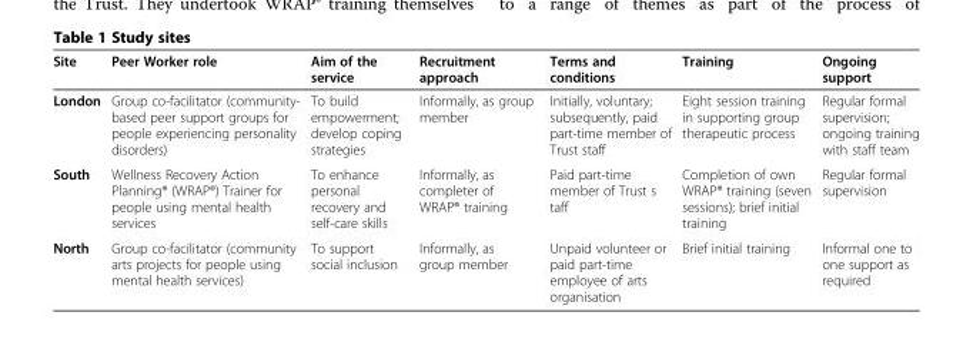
<table><thead><tr><td>Site</td><td>Peer Worker role</td><td>Aim of the service</td><td>Recruitment approach</td><td>Terms and conditions</td><td>Training</td><td>Ongoing support</td></tr></thead><tbody><tr><td>London</td><td>Group co-facilitator (community- based peer support groups for people experiencing personality disorders)</td><td>To build empowerment; develop coping strategies</td><td>Informally, as group member</td><td>Initially, voluntary; subsequently, paid part-time member of Trust staff</td><td>Eight session training in supporting group therapeutic process</td><td>Regular formal supervision; ongoing training with staff team</td></tr><tr><td>South</td><td>Wellness Recovery Action Planning® (WRAP®) Trainer for people using mental health services</td><td>To enhance personal recovery and self-care skills</td><td>Informally, as completer of WRAP® training</td><td>Paid part-time member of Trust s taff</td><td>Completion of own WRAP® training (seven sessions); brief initial training</td><td>Regular formal supervision</td></tr><tr><td>North</td><td>Group co-facilitator (community arts projects for people using mental health services)</td><td>To support social inclusion</td><td>Informally, as group member</td><td>Unpaid volunteer or paid part-time employee of arts organisation</td><td>Brief initial training</td><td>Informal one to one support as required</td></tr></tbody></table>